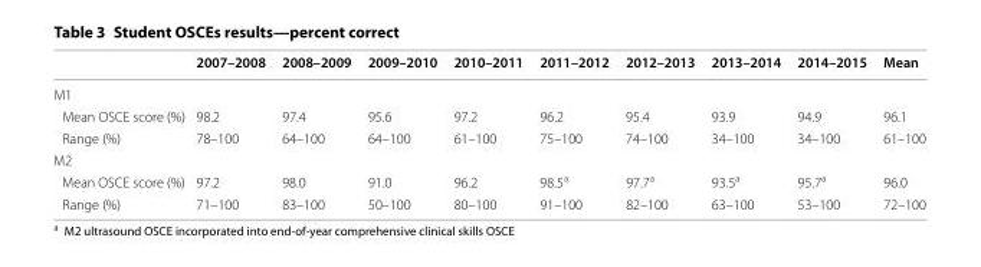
<table><thead><tr><td></td><td>2007–2008</td><td>2008–2009</td><td>2009–2010</td><td>2010–2011</td><td>2011–2012</td><td>2012–2013</td><td>2013–2014</td><td>2014–2015</td><td>Mean</td></tr></thead><tbody><tr><td colspan="10">M1</td></tr><tr><td>Mean OSCE score (%)</td><td>98.2</td><td>97.4</td><td>95.6</td><td>97.2</td><td>96.2</td><td>95.4</td><td>93.9</td><td>94.9</td><td>96.1</td></tr><tr><td>Range (%)</td><td>78–100</td><td>64–100</td><td>64–100</td><td>61–100</td><td>75–100</td><td>74–100</td><td>34–100</td><td>34–100</td><td>61–100</td></tr><tr><td colspan="10">M2</td></tr><tr><td>Mean OSCE score (%)</td><td>97.2</td><td>98.0</td><td>91.0</td><td>96.2</td><td>98.5<sup>a</sup></td><td>97.7<sup>a</sup></td><td>93.5<sup>a</sup></td><td>95.7<sup>a</sup></td><td>96.0</td></tr><tr><td>Range (%)</td><td>71–100</td><td>83–100</td><td>50–100</td><td>80–100</td><td>91–100</td><td>82–100</td><td>63–100</td><td>53–100</td><td>72–100</td></tr></tbody></table>